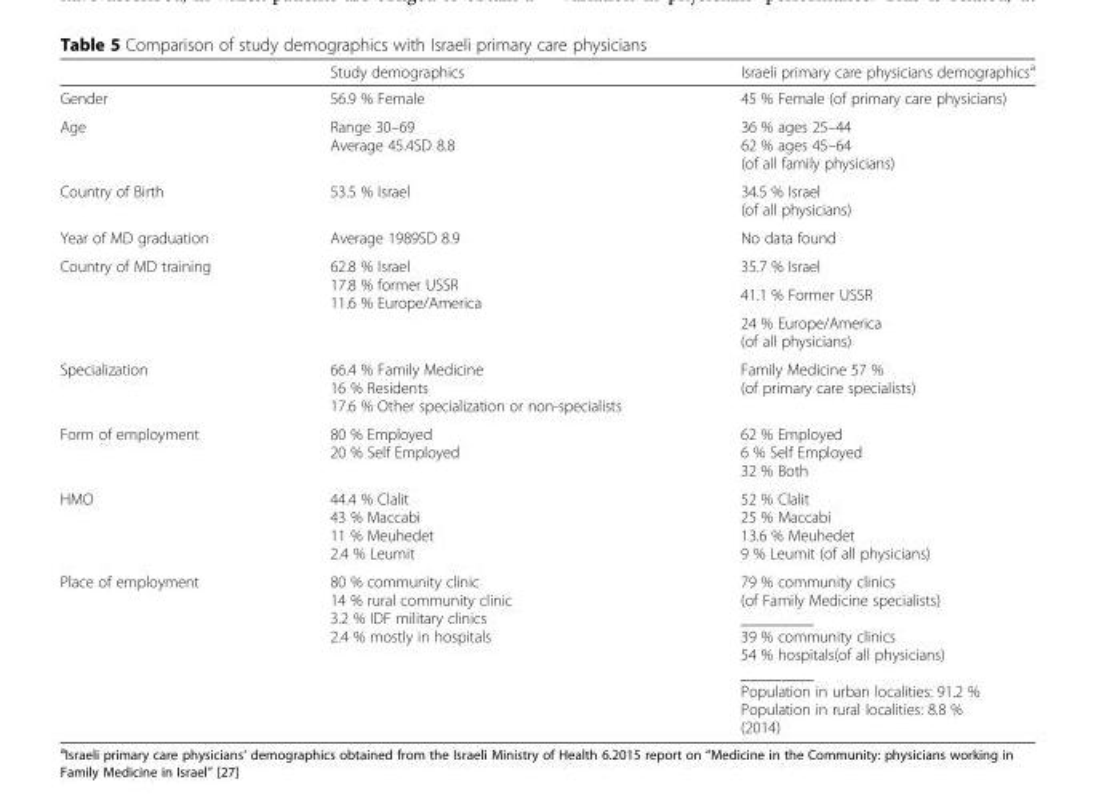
<table><thead><tr><td></td><td>Study demographics</td><td>Israeli primary care physicians demographics<sup>a</sup></td></tr></thead><tbody><tr><td>Gender</td><td>56.9 % Female</td><td>45 % Female (of primary care physicians)</td></tr><tr><td>Age</td><td>Range 30–69 Average 45.4SD 8.8</td><td>36 % ages 25–44 62 % ages 45–64 (of all family physicians)</td></tr><tr><td>Country of Birth</td><td>53.5 % Israel</td><td>34.5 % Israel (of all physicians)</td></tr><tr><td>Year of MD graduation</td><td>Average 1989SD 8.9</td><td>No data found</td></tr><tr><td rowspan="3">Country of MD training</td><td rowspan="3">62.8 % Israel 17.8 % former USSR 11.6 % Europe/America</td><td>35.7 % Israel</td></tr><tr><td>41.1 % Former USSR</td></tr><tr><td>24 % Europe/America (of all physicians)</td></tr><tr><td>Specialization</td><td>66.4 % Family Medicine 16 % Residents 17.6 % Other specialization or non-specialists</td><td>Family Medicine 57 % (of primary care specialists)</td></tr><tr><td>Form of employment</td><td>80 % Employed 20 % Self Employed</td><td>62 % Employed 6 % Self Employed 32 % Both</td></tr><tr><td>HMO</td><td>44.4 % Clalit 43 % Maccabi 11 % Meuhedet 2.4 % Leumit</td><td>52 % Clalit 25 % Maccabi 13.6 % Meuhedet 9 % Leumit (of all physicians)</td></tr><tr><td>Place of employment</td><td>80 % community clinic 14 % rural community clinic 3.2 % IDF military clinics 2.4 % mostly in hospitals</td><td>79 % community clinics (of Family Medicine specialists) _________ 39 % community clinics 54 % hospitals(of all physicians) _________ Population in urban localities: 91.2 % Population in rural localities: 8.8 % (2014)</td></tr></tbody></table>